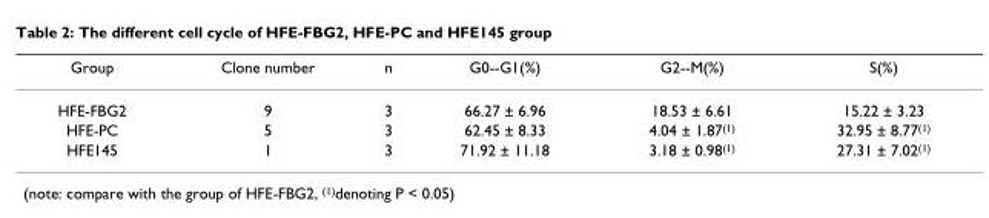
<table><thead><tr><td>Group</td><td>Clone number</td><td>n</td><td>G0--G1(%)</td><td>G2--M(%)</td><td>S(%)</td></tr></thead><tbody><tr><td>HFE-FBG2</td><td>9</td><td>3</td><td>66.27 ± 6.96</td><td>18.53 ± 6.61</td><td>15.22 ± 3.23</td></tr><tr><td>HFE-PC</td><td>5</td><td>3</td><td>62.45 ± 8.33</td><td>4.04 ± 1.87<sup>(1)</sup></td><td>32.95 ± 8.77<sup>(1)</sup></td></tr><tr><td>HFE145</td><td>1</td><td>3</td><td>71.92 ± 11.18</td><td>3.18 ± 0.98<sup>(1)</sup></td><td>27.31 ± 7.02<sup>(1)</sup></td></tr></tbody></table>